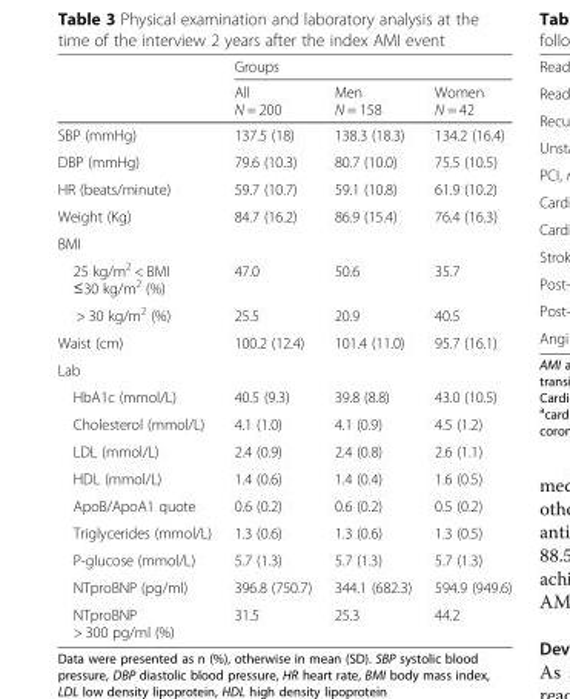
<table><thead><tr><td rowspan="2"></td><td colspan="3">Groups</td></tr><tr><td>All N = 200</td><td>Men N = 158</td><td>Women N = 42</td></tr></thead><tbody><tr><td>SBP (mmHg)</td><td>137.5 (18)</td><td>138.3 (18.3)</td><td>134.2 (16.4)</td></tr><tr><td>DBP (mmHg)</td><td>79.6 (10.3)</td><td>80.7 (10.0)</td><td>75.5 (10.5)</td></tr><tr><td>HR (beats/minute)</td><td>59.7 (10.7)</td><td>59.1 (10.8)</td><td>61.9 (10.2)</td></tr><tr><td>Weight (Kg)</td><td>84.7 (16.2)</td><td>86.9 (15.4)</td><td>76.4 (16.3)</td></tr><tr><td colspan="4">BMI</td></tr><tr><td>25 kg/m<sup>2</sup> &lt; BMI ≤30 kg/m<sup>2</sup> (%)</td><td>47.0</td><td>50.6</td><td>35.7</td></tr><tr><td>&gt; 30 kg/m<sup>2</sup> (%)</td><td>25.5</td><td>20.9</td><td>40.5</td></tr><tr><td>Waist (cm)</td><td>100.2 (12.4)</td><td>101.4 (11.0)</td><td>95.7 (16.1)</td></tr><tr><td colspan="4">Lab</td></tr><tr><td>HbA1c (mmol/L)</td><td>40.5 (9.3)</td><td>39.8 (8.8)</td><td>43.0 (10.5)</td></tr><tr><td>Cholesterol (mmol/L)</td><td>4.1 (1.0)</td><td>4.1 (0.9)</td><td>4.5 (1.2)</td></tr><tr><td>LDL (mmol/L)</td><td>2.4 (0.9)</td><td>2.4 (0.8)</td><td>2.6 (1.1)</td></tr><tr><td>HDL (mmol/L)</td><td>1.4 (0.6)</td><td>1.4 (0.4)</td><td>1.6 (0.5)</td></tr><tr><td>ApoB/ApoA1 quote</td><td>0.6 (0.2)</td><td>0.6 (0.2)</td><td>0.5 (0.2)</td></tr><tr><td>Triglycerides (mmol/L)</td><td>1.3 (0.6)</td><td>1.3 (0.6)</td><td>1.3 (0.5)</td></tr><tr><td>P-glucose (mmol/L)</td><td>5.7 (1.3)</td><td>5.7 (1.3)</td><td>5.7 (1.3)</td></tr><tr><td>NTproBNP (pg/ml)</td><td>396.8 (750.7)</td><td>344.1 (682.3)</td><td>594.9 (949.6)</td></tr><tr><td>NTproBNP &gt; 300 pg/ml (%)</td><td>31.5</td><td>25.3</td><td>44.2</td></tr></tbody></table>